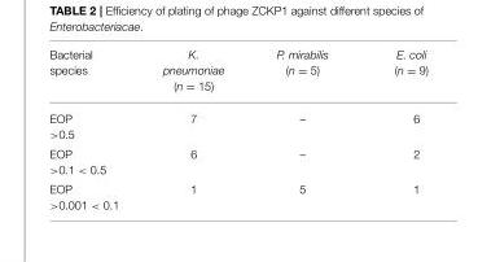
<table><thead><tr><td>Bacterial species</td><td>K. pneumoniae (n = 15)</td><td>P. mirabilis (n = 5)</td><td>E. coli (n = 9)</td></tr></thead><tbody><tr><td>EOP &gt;0.5</td><td>7</td><td>–</td><td>6</td></tr><tr><td>EOP &gt;0.1 &lt; 0.5</td><td>6</td><td>–</td><td>2</td></tr><tr><td>EOP &gt;0.001 &lt; 0.1</td><td>1</td><td>5</td><td>1</td></tr></tbody></table>